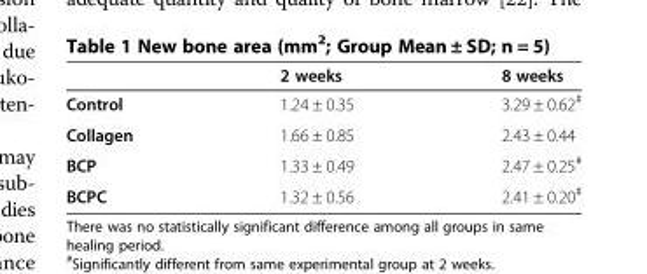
<table><thead><tr><td></td><td>2 weeks</td><td>8 weeks</td></tr></thead><tbody><tr><td>Control</td><td>1.24 ± 0.35</td><td>3.29 ± 0.62<sup>#</sup></td></tr><tr><td>Collagen</td><td>1.66 ± 0.85</td><td>2.43 ± 0.44</td></tr><tr><td>BCP</td><td>1.33 ± 0.49</td><td>2.47 ± 0.25<sup>#</sup></td></tr><tr><td>BCPC</td><td>1.32 ± 0.56</td><td>2.41 ± 0.20<sup>#</sup></td></tr></tbody></table>